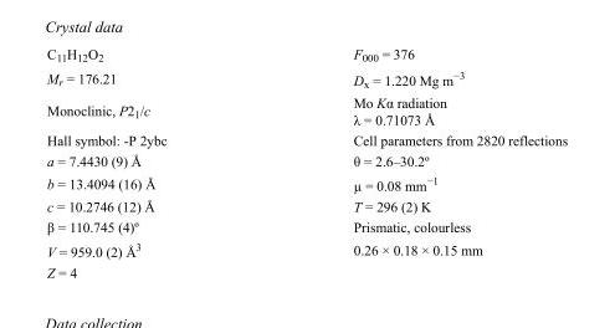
<table><tbody><tr><td>C<sub>11</sub>H<sub>12</sub>O<sub>2</sub></td><td>F<sub>000</sub> = 376</td></tr><tr><td>M<sub>r</sub> = 176.21</td><td>D<sub>x</sub> = 1.220 Mg m<sup>−3</sup></td></tr><tr><td>Monoclinic, P2<sub>1</sub>/c</td><td>Mo Kα radiation λ = 0.71073 Å</td></tr><tr><td>Hall symbol: -P 2ybc</td><td>Cell parameters from 2820 reflections</td></tr><tr><td>a = 7.4430 (9) Å</td><td>θ = 2.6–30.2º</td></tr><tr><td>b = 13.4094 (16) Å</td><td>µ = 0.08 mm<sup>−1</sup></td></tr><tr><td>c = 10.2746 (12) Å</td><td>T = 296 (2) K</td></tr><tr><td>β = 110.745 (4)º</td><td>Prismatic, colourless</td></tr><tr><td>V = 959.0 (2) Å<sup>3</sup></td><td>0.26 × 0.18 × 0.15 mm</td></tr><tr><td>Z = 4</td><td></td></tr></tbody></table>